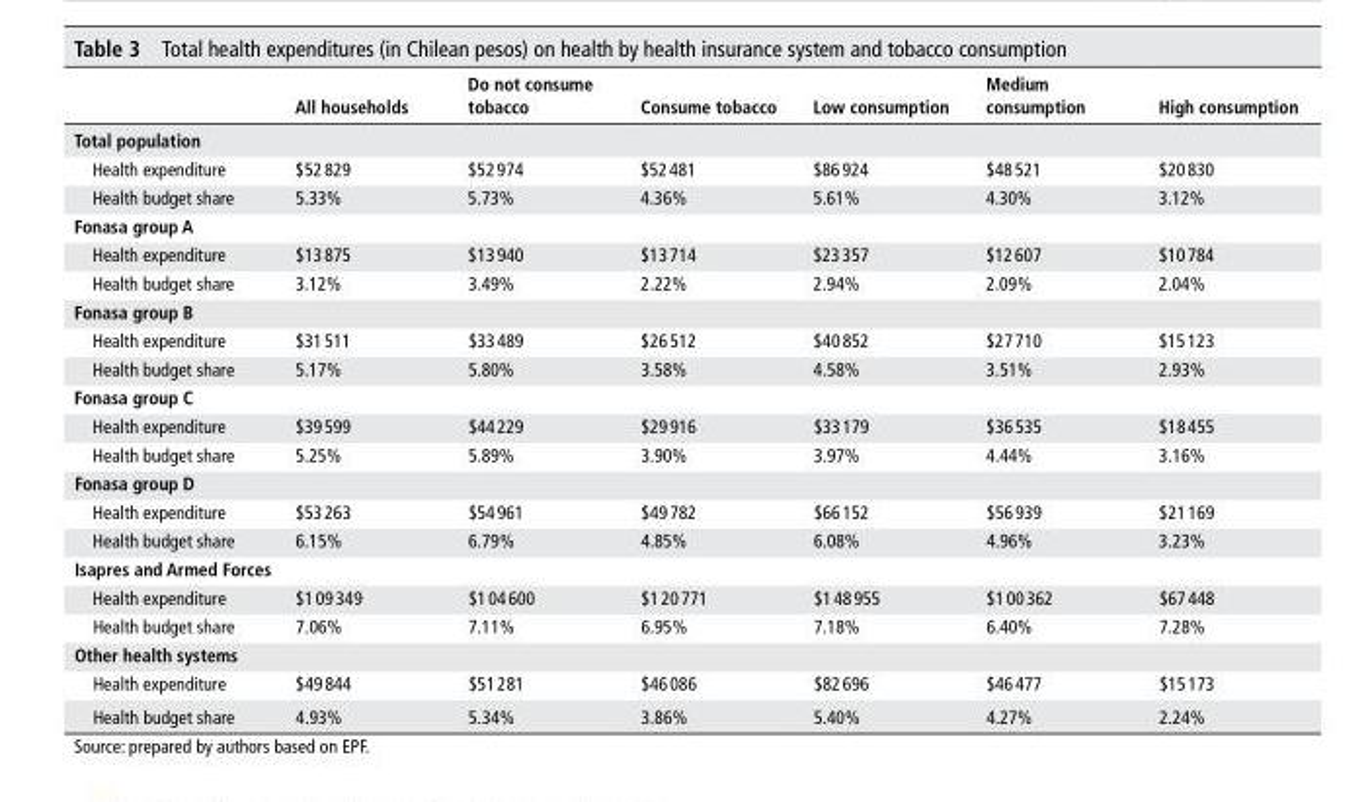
<table><thead><tr><td></td><td>All households</td><td>do not consume tobacco</td><td>Consume tobacco</td><td>Low consumption</td><td>Medium consumption</td><td>high consumption</td></tr></thead><tbody><tr><td colspan="7">Total population</td></tr><tr><td>Health expenditure</td><td>$52 829</td><td>$52 974</td><td>$52 481</td><td>$86 924</td><td>$48 521</td><td>$20 830</td></tr><tr><td>Health budget share</td><td>5.33%</td><td>5.73%</td><td>4.36%</td><td>5.61%</td><td>4.30%</td><td>3.12%</td></tr><tr><td colspan="7">Fonasa group A</td></tr><tr><td>Health expenditure</td><td>$13 875</td><td>$13 940</td><td>$13 714</td><td>$23 357</td><td>$12 607</td><td>$10 784</td></tr><tr><td>Health budget share</td><td>3.12%</td><td>3.49%</td><td>2.22%</td><td>2.94%</td><td>2.09%</td><td>2.04%</td></tr><tr><td colspan="7">Fonasa group b</td></tr><tr><td>Health expenditure</td><td>$31 511</td><td>$33 489</td><td>$26 512</td><td>$40 852</td><td>$27 710</td><td>$15 123</td></tr><tr><td>Health budget share</td><td>5.17%</td><td>5.80%</td><td>3.58%</td><td>4.58%</td><td>3.51%</td><td>2.93%</td></tr><tr><td colspan="7">Fonasa group C</td></tr><tr><td>Health expenditure</td><td>$39 599</td><td>$44 229</td><td>$29 916</td><td>$33 179</td><td>$36 535</td><td>$18 455</td></tr><tr><td>Health budget share</td><td>5.25%</td><td>5.89%</td><td>3.90%</td><td>3.97%</td><td>4.44%</td><td>3.16%</td></tr><tr><td colspan="7">Fonasa group d</td></tr><tr><td>Health expenditure</td><td>$53 263</td><td>$54 961</td><td>$49 782</td><td>$66 152</td><td>$56 939</td><td>$21 169</td></tr><tr><td>Health budget share</td><td>6.15%</td><td>6.79%</td><td>4.85%</td><td>6.08%</td><td>4.96%</td><td>3.23%</td></tr><tr><td colspan="7">Isapres and Armed Forces</td></tr><tr><td>Health expenditure</td><td>$1 09 349</td><td>$1 04 600</td><td>$1 20 771</td><td>$1 48 955</td><td>$1 00 362</td><td>$67 448</td></tr><tr><td>Health budget share</td><td>7.06%</td><td>7.11%</td><td>6.95%</td><td>7.18%</td><td>6.40%</td><td>7.28%</td></tr><tr><td colspan="7">Other health systems</td></tr><tr><td>Health expenditure</td><td>$49 844</td><td>$51 281</td><td>$46 086</td><td>$82 696</td><td>$46 477</td><td>$15 173</td></tr><tr><td>Health budget share</td><td>4.93%</td><td>5.34%</td><td>3.86%</td><td>5.40%</td><td>4.27%</td><td>2.24%</td></tr></tbody></table>